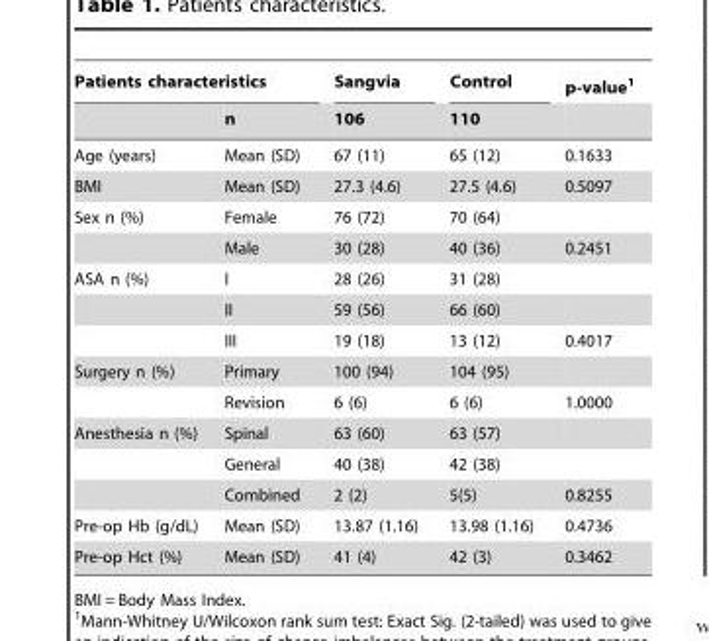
<table><thead><tr><td colspan="2">Patients characteristics</td><td rowspan="2">Sangvia 106</td><td rowspan="2">Control 110</td><td rowspan="2">p-value<sup>1</sup></td></tr><tr><td></td><td>n</td></tr></thead><tbody><tr><td>Age (years)</td><td>Mean (SD)</td><td>67 (11)</td><td>65 (12)</td><td>0.1633</td></tr><tr><td>BMI</td><td>Mean (SD)</td><td>27.3 (4.6)</td><td>27.5 (4.6)</td><td>0.5097</td></tr><tr><td rowspan="2">Sex n (%)</td><td>Female</td><td>76 (72)</td><td>70 (64)</td><td></td></tr><tr><td>Male</td><td>30 (28)</td><td>40 (36)</td><td>0.2451</td></tr><tr><td rowspan="3">ASA n (%)</td><td>I</td><td>28 (26)</td><td>31 (28)</td><td></td></tr><tr><td>II</td><td>59 (56)</td><td>66 (60)</td><td></td></tr><tr><td>III</td><td>19 (18)</td><td>13 (12)</td><td>0.4017</td></tr><tr><td rowspan="2">Surgery n (%)</td><td>Primary</td><td>100 (94)</td><td>104 (95)</td><td></td></tr><tr><td>Revision</td><td>6 (6)</td><td>6 (6)</td><td>1.0000</td></tr><tr><td rowspan="3">Anesthesia n (%)</td><td>Spinal</td><td>63 (60)</td><td>63 (57)</td><td></td></tr><tr><td>General</td><td>40 (38)</td><td>42 (38)</td><td></td></tr><tr><td>Combined</td><td>2 (2)</td><td>5(5)</td><td>0.8255</td></tr><tr><td>Pre-op Hb (g/dL)</td><td>Mean (SD)</td><td>13.87 (1.16)</td><td>13.98 (1.16)</td><td>0.4736</td></tr><tr><td>Pre-op Hct (%)</td><td>Mean (SD)</td><td>41 (4)</td><td>42 (3)</td><td>0.3462</td></tr></tbody></table>